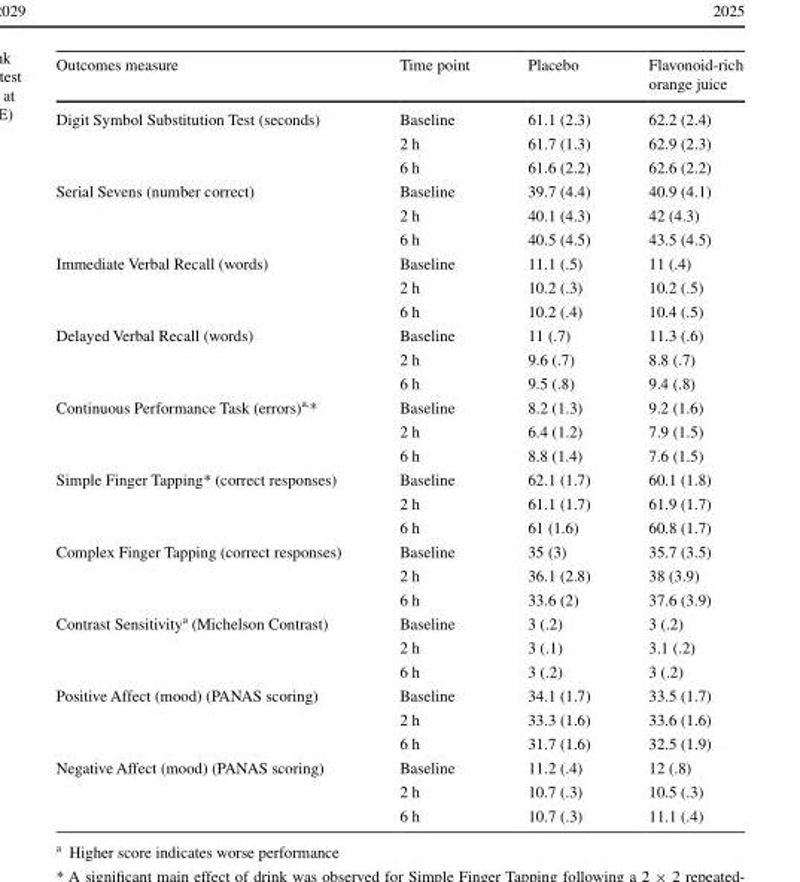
<table><thead><tr><td>Outcomes measure</td><td>Time point</td><td>Placebo</td><td>Flavonoid-rich orange juice</td></tr></thead><tbody><tr><td rowspan="3">Digit Symbol Substitution Test (seconds)</td><td>Baseline</td><td>61.1 (2.3)</td><td>62.2 (2.4)</td></tr><tr><td>2 h</td><td>61.7 (1.3)</td><td>62.9 (2.3)</td></tr><tr><td>6 h</td><td>61.6 (2.2)</td><td>62.6 (2.2)</td></tr><tr><td rowspan="3">Serial Sevens (number correct)</td><td>Baseline</td><td>39.7 (4.4)</td><td>40.9 (4.1)</td></tr><tr><td>2 h</td><td>40.1 (4.3)</td><td>42 (4.3)</td></tr><tr><td>6 h</td><td>40.5 (4.5)</td><td>43.5 (4.5)</td></tr><tr><td rowspan="3">Immediate Verbal Recall (words)</td><td>Baseline</td><td>11.1 (.5)</td><td>11 (.4)</td></tr><tr><td>2 h</td><td>10.2 (.3)</td><td>10.2 (.5)</td></tr><tr><td>6 h</td><td>10.2 (.4)</td><td>10.4 (.5)</td></tr><tr><td rowspan="3">Delayed Verbal Recall (words)</td><td>Baseline</td><td>11 (.7)</td><td>11.3 (.6)</td></tr><tr><td>2 h</td><td>9.6 (.7)</td><td>8.8 (.7)</td></tr><tr><td>6 h</td><td>9.5 (.8)</td><td>9.4 (.8)</td></tr><tr><td rowspan="3">Continuous Performance Task (errors)<sup>a,</sup>*</td><td>Baseline</td><td>8.2 (1.3)</td><td>9.2 (1.6)</td></tr><tr><td>2 h</td><td>6.4 (1.2)</td><td>7.9 (1.5)</td></tr><tr><td>6 h</td><td>8.8 (1.4)</td><td>7.6 (1.5)</td></tr><tr><td rowspan="3">Simple Finger Tapping* (correct responses)</td><td>Baseline</td><td>62.1 (1.7)</td><td>60.1 (1.8)</td></tr><tr><td>2 h</td><td>61.1 (1.7)</td><td>61.9 (1.7)</td></tr><tr><td>6 h</td><td>61 (1.6)</td><td>60.8 (1.7)</td></tr><tr><td rowspan="3">Complex Finger Tapping (correct responses)</td><td>Baseline</td><td>35 (3)</td><td>35.7 (3.5)</td></tr><tr><td>2 h</td><td>36.1 (2.8)</td><td>38 (3.9)</td></tr><tr><td>6 h</td><td>33.6 (2)</td><td>37.6 (3.9)</td></tr><tr><td rowspan="3">Contrast Sensitivity<sup>a</sup> (Michelson Contrast)</td><td>Baseline</td><td>3 (.2)</td><td>3 (.2)</td></tr><tr><td>2 h</td><td>3 (.1)</td><td>3.1 (.2)</td></tr><tr><td>6 h</td><td>3 (.2)</td><td>3 (.2)</td></tr><tr><td rowspan="3">Positive Affect (mood) (PANAS scoring)</td><td>Baseline</td><td>34.1 (1.7)</td><td>33.5 (1.7)</td></tr><tr><td>2 h</td><td>33.3 (1.6)</td><td>33.6 (1.6)</td></tr><tr><td>6 h</td><td>31.7 (1.6)</td><td>32.5 (1.9)</td></tr><tr><td rowspan="3">Negative Affect (mood) (PANAS scoring)</td><td>Baseline</td><td>11.2 (.4)</td><td>12 (.8)</td></tr><tr><td>2 h</td><td>10.7 (.3)</td><td>10.5 (.3)</td></tr><tr><td>6 h</td><td>10.7 (.3)</td><td>11.1 (.4)</td></tr></tbody></table>